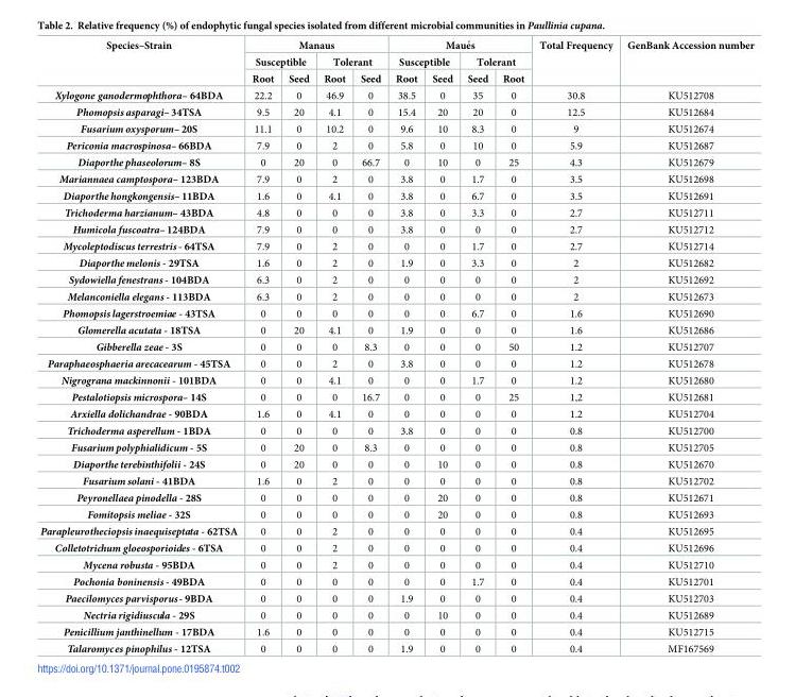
<table><thead><tr><td rowspan="3">Species–Strain</td><td colspan="4">Manaus</td><td colspan="4">Maue´s</td><td rowspan="3">Total Frequency</td><td rowspan="3">GenBank Accession number</td></tr><tr><td colspan="2">Susceptible</td><td colspan="2">Tolerant</td><td colspan="2">Susceptible</td><td colspan="2">Tolerant</td></tr><tr><td>Root</td><td>Seed</td><td>Root</td><td>Seed</td><td>Root</td><td>Seed</td><td>Seed</td><td>Root</td></tr></thead><tbody><tr><td>Xylogone ganodermophthora– 64BDA</td><td>22.2</td><td>0</td><td>46.9</td><td>0</td><td>38.5</td><td>0</td><td>35</td><td>0</td><td>30.8</td><td>KU512708</td></tr><tr><td>Phomopsis asparagi– 34TSA</td><td>9.5</td><td>20</td><td>4.1</td><td>0</td><td>15.4</td><td>20</td><td>20</td><td>0</td><td>12.5</td><td>KU512684</td></tr><tr><td>Fusarium oxysporum– 20S</td><td>11.1</td><td>0</td><td>10.2</td><td>0</td><td>9.6</td><td>10</td><td>8.3</td><td>0</td><td>9</td><td>KU512674</td></tr><tr><td>Periconia macrospinosa– 66BDA</td><td>7.9</td><td>0</td><td>2</td><td>0</td><td>5.8</td><td>0</td><td>10</td><td>0</td><td>5.9</td><td>KU512687</td></tr><tr><td>Diaporthe phaseolorum– 8S</td><td>0</td><td>20</td><td>0</td><td>66.7</td><td>0</td><td>10</td><td>0</td><td>25</td><td>4.3</td><td>KU512679</td></tr><tr><td>Mariannaea camptospora– 123BDA</td><td>7.9</td><td>0</td><td>2</td><td>0</td><td>3.8</td><td>0</td><td>1.7</td><td>0</td><td>3.5</td><td>KU512698</td></tr><tr><td>Diaporthe hongkongensis– 11BDA</td><td>1.6</td><td>0</td><td>4.1</td><td>0</td><td>3.8</td><td>0</td><td>6.7</td><td>0</td><td>3.5</td><td>KU512691</td></tr><tr><td>Trichoderma harzianum– 43BDA</td><td>4.8</td><td>0</td><td>0</td><td>0</td><td>3.8</td><td>0</td><td>3.3</td><td>0</td><td>2.7</td><td>KU512711</td></tr><tr><td>Humicola fuscoatra– 124BDA</td><td>7.9</td><td>0</td><td>0</td><td>0</td><td>3.8</td><td>0</td><td>0</td><td>0</td><td>2.7</td><td>KU512712</td></tr><tr><td>Mycoleptodiscus terrestris- 64TSA</td><td>7.9</td><td>0</td><td>2</td><td>0</td><td>0</td><td>0</td><td>1.7</td><td>0</td><td>2.7</td><td>KU512714</td></tr><tr><td>Diaporthe melonis - 29TSA</td><td>1.6</td><td>0</td><td>2</td><td>0</td><td>1.9</td><td>0</td><td>3.3</td><td>0</td><td>2</td><td>KU512682</td></tr><tr><td>Sydowiella fenestrans - 104BDA</td><td>6.3</td><td>0</td><td>2</td><td>0</td><td>0</td><td>0</td><td>0</td><td>0</td><td>2</td><td>KU512692</td></tr><tr><td>Melanconiella elegans - 113BDA</td><td>6.3</td><td>0</td><td>2</td><td>0</td><td>0</td><td>0</td><td>0</td><td>0</td><td>2</td><td>KU512673</td></tr><tr><td>Phomopsis lagerstroemiae - 43TSA</td><td>0</td><td>0</td><td>0</td><td>0</td><td>0</td><td>0</td><td>6.7</td><td>0</td><td>1.6</td><td>KU512690</td></tr><tr><td>Glomerella acutata - 18TSA</td><td>0</td><td>20</td><td>4.1</td><td>0</td><td>1.9</td><td>0</td><td>0</td><td>0</td><td>1.6</td><td>KU512686</td></tr><tr><td>Gibberella zeae - 3S</td><td>0</td><td>0</td><td>0</td><td>8.3</td><td>0</td><td>0</td><td>0</td><td>50</td><td>1.2</td><td>KU512707</td></tr><tr><td>Paraphaeosphaeria arecacearum - 45TSA</td><td>0</td><td>0</td><td>2</td><td>0</td><td>3.8</td><td>0</td><td>0</td><td>0</td><td>1.2</td><td>KU512678</td></tr><tr><td>Nigrograna mackinnonii - 101BDA</td><td>0</td><td>0</td><td>4.1</td><td>0</td><td>0</td><td>0</td><td>1.7</td><td>0</td><td>1.2</td><td>KU512680</td></tr><tr><td>Pestalotiopsis microspora– 14S</td><td>0</td><td>0</td><td>0</td><td>16.7</td><td>0</td><td>0</td><td>0</td><td>25</td><td>1,2</td><td>KU512681</td></tr><tr><td>Arxiella dolichandrae - 90BDA</td><td>1.6</td><td>0</td><td>4.1</td><td>0</td><td>0</td><td>0</td><td>0</td><td>0</td><td>1.2</td><td>KU512704</td></tr><tr><td>Trichoderma asperellum - 1BDA</td><td>0</td><td>0</td><td>0</td><td>0</td><td>3.8</td><td>0</td><td>0</td><td>0</td><td>0.8</td><td>KU512700</td></tr><tr><td>Fusarium polyphialidicum - 5S</td><td>0</td><td>20</td><td>0</td><td>8.3</td><td>0</td><td>0</td><td>0</td><td>0</td><td>0.8</td><td>KU512705</td></tr><tr><td>Diaporthe terebinthifolii - 24S</td><td>0</td><td>20</td><td>0</td><td>0</td><td>0</td><td>10</td><td>0</td><td>0</td><td>0.8</td><td>KU512670</td></tr><tr><td>Fusarium solani - 41BDA</td><td>1.6</td><td>0</td><td>2</td><td>0</td><td>0</td><td>0</td><td>0</td><td>0</td><td>0.8</td><td>KU512702</td></tr><tr><td>Peyronellaea pinodella - 28S</td><td>0</td><td>0</td><td>0</td><td>0</td><td>0</td><td>20</td><td>0</td><td>0</td><td>0.8</td><td>KU512671</td></tr><tr><td>Fomitopsis meliae - 32S</td><td>0</td><td>0</td><td>0</td><td>0</td><td>0</td><td>20</td><td>0</td><td>0</td><td>0.8</td><td>KU512693</td></tr><tr><td>Parapleurotheciopsis inaequiseptata - 62TSA</td><td>0</td><td>0</td><td>2</td><td>0</td><td>0</td><td>0</td><td>0</td><td>0</td><td>0.4</td><td>KU512695</td></tr><tr><td>Colletotrichum gloeosporioides - 6TSA</td><td>0</td><td>0</td><td>2</td><td>0</td><td>0</td><td>0</td><td>0</td><td>0</td><td>0.4</td><td>KU512696</td></tr><tr><td>Mycena robusta - 95BDA</td><td>0</td><td>0</td><td>2</td><td>0</td><td>0</td><td>0</td><td>0</td><td>0</td><td>0.4</td><td>KU512710</td></tr><tr><td>Pochonia boninensis - 49BDA</td><td>0</td><td>0</td><td>0</td><td>0</td><td>0</td><td>0</td><td>1.7</td><td>0</td><td>0.4</td><td>KU512701</td></tr><tr><td>Paecilomyces parvisporus- 9BDA</td><td>0</td><td>0</td><td>0</td><td>0</td><td>1.9</td><td>0</td><td>0</td><td>0</td><td>0.4</td><td>KU512703</td></tr><tr><td>Nectria rigidiuscula - 29S</td><td>0</td><td>0</td><td>0</td><td>0</td><td>0</td><td>10</td><td>0</td><td>0</td><td>0.4</td><td>KU512689</td></tr><tr><td>Penicillium janthinellum - 17BDA</td><td>1.6</td><td>0</td><td>0</td><td>0</td><td>0</td><td>0</td><td>0</td><td>0</td><td>0.4</td><td>KU512715</td></tr><tr><td>Talaromyces pinophilus - 12TSA</td><td>0</td><td>0</td><td>0</td><td>0</td><td>1.9</td><td>0</td><td>0</td><td>0</td><td>0.4</td><td>MF167569</td></tr></tbody></table>